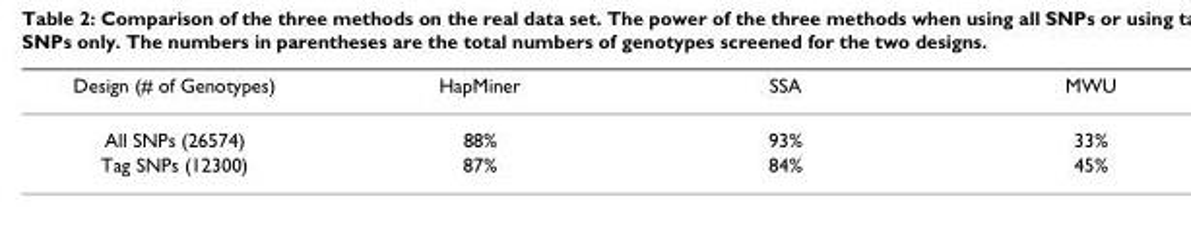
<table><thead><tr><td>Design (# of Genotypes)</td><td>HapMiner</td><td>SSA</td><td>MWU</td></tr></thead><tbody><tr><td>All SNPs (26574)</td><td>88%</td><td>93%</td><td>33%</td></tr><tr><td>Tag SNPs (12300)</td><td>87%</td><td>84%</td><td>45%</td></tr></tbody></table>